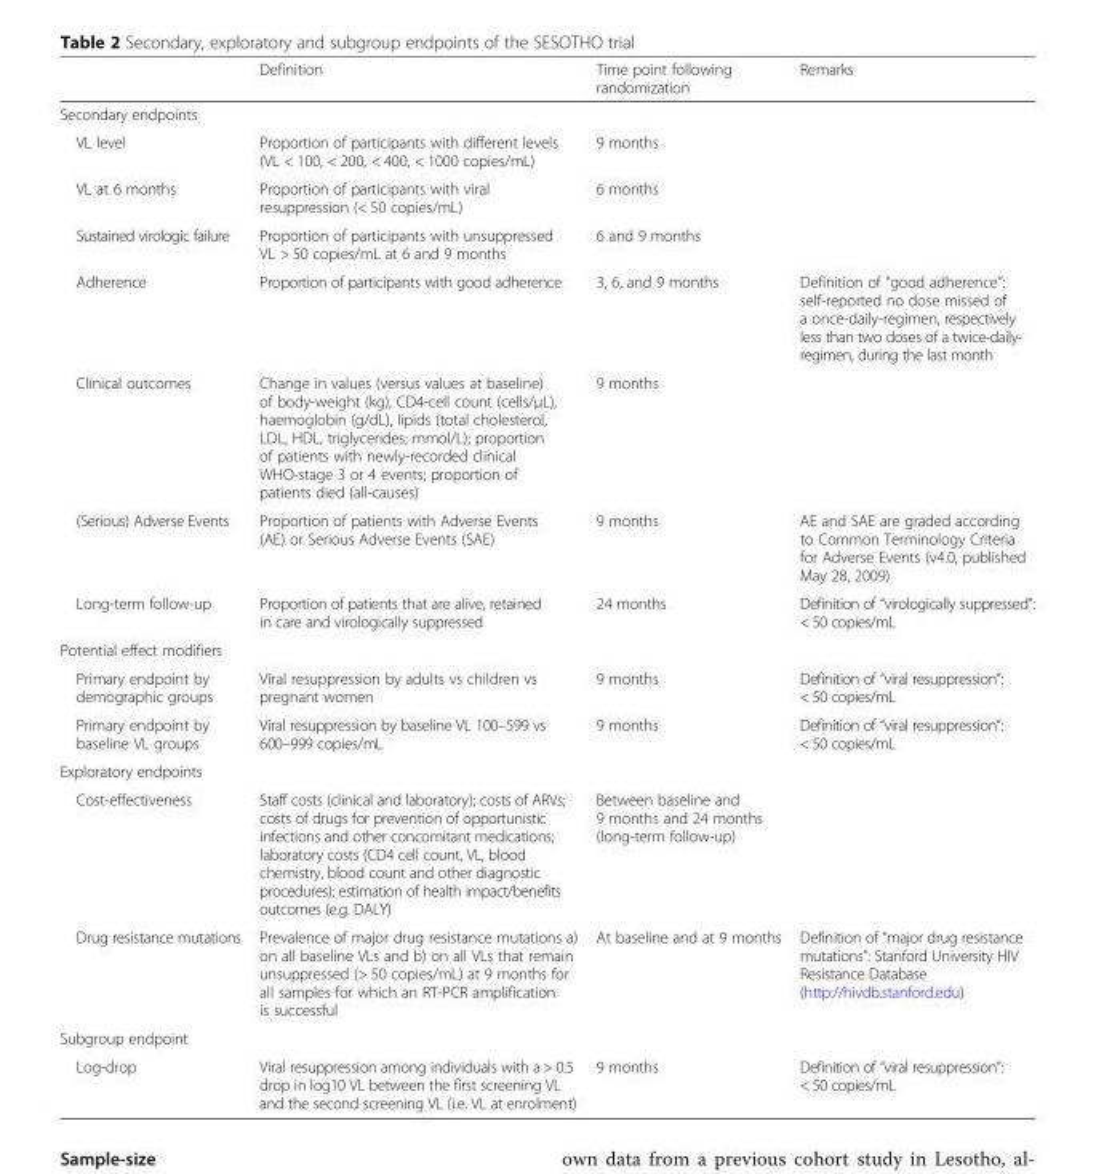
<table><thead><tr><td></td><td>Definition</td><td>Time point following randomization</td><td>Remarks</td></tr></thead><tbody><tr><td colspan="4">Secondary endpoints</td></tr><tr><td>VL level</td><td>Proportion of participants with different levels (VL &lt; 100, &lt; 200, &lt; 400, &lt; 1000 copies/mL)</td><td>9 months</td><td></td></tr><tr><td>VL at 6 months</td><td>Proportion of participants with viral resuppression (&lt; 50 copies/mL)</td><td>6 months</td><td></td></tr><tr><td>Sustained virologic failure</td><td>Proportion of participants with unsuppressed VL &gt; 50 copies/mL at 6 and 9 months</td><td>6 and 9 months</td><td></td></tr><tr><td>Adherence</td><td>Proportion of participants with good adherence</td><td>3, 6, and 9 months</td><td>Definition of “good adherence”: self-reported no dose missed of a once-daily-regimen, respectively less than two doses of a twice-daily- regimen, during the last month</td></tr><tr><td>Clinical outcomes</td><td>Change in values (versus values at baseline) of body-weight (kg), CD4-cell count (cells/μL), haemoglobin (g/dL), lipids (total cholesterol, LDL, HDL, triglycerides; mmol/L); proportion of patients with newly-recorded clinical WHO-stage 3 or 4 events; proportion of patients died (all-causes)</td><td>9 months</td><td></td></tr><tr><td>(Serious) Adverse Events</td><td>Proportion of patients with Adverse Events (AE) or Serious Adverse Events (SAE)</td><td>9 months</td><td>AE and SAE are graded according to Common Terminology Criteria for Adverse Events (v4.0, published May 28, 2009)</td></tr><tr><td>Long-term follow-up</td><td>Proportion of patients that are alive, retained in care and virologically suppressed</td><td>24 months</td><td>Definition of “virologically suppressed”: &lt; 50 copies/mL</td></tr><tr><td colspan="4">Potential effect modifiers</td></tr><tr><td>Primary endpoint by demographic groups</td><td>Viral resuppression by adults vs children vs pregnant women</td><td>9 months</td><td>Definition of “viral resuppression”: &lt; 50 copies/mL</td></tr><tr><td>Primary endpoint by baseline VL groups</td><td>Viral resuppression by baseline VL 100–599 vs 600–999 copies/mL</td><td>9 months</td><td>Definition of “viral resuppression”: &lt; 50 copies/mL</td></tr><tr><td colspan="4">Exploratory endpoints</td></tr><tr><td>Cost-effectiveness</td><td>Staff costs (clinical and laboratory); costs of ARVs; costs of drugs for prevention of opportunistic infections and other concomitant medications; laboratory costs (CD4 cell count, VL, blood chemistry, blood count and other diagnostic procedures); estimation of health impact/benefits outcomes (e.g. DALY)</td><td>Between baseline and 9 months and 24 months (long-term follow-up)</td><td></td></tr><tr><td>Drug resistance mutations</td><td>Prevalence of major drug resistance mutations a) on all baseline VLs and b) on all VLs that remain unsuppressed (&gt; 50 copies/mL) at 9 months for all samples for which an RT-PCR amplification is successful</td><td>At baseline and at 9 months</td><td>Definition of “major drug resistance mutations”: Stanford University HIV Resistance Database (http://hivdb.stanford.edu)</td></tr><tr><td colspan="4">Subgroup endpoint</td></tr><tr><td>Log-drop</td><td>Viral resuppression among individuals with a &gt; 0.5 drop in log10 VL between the first screening VL and the second screening VL (i.e. VL at enrolment)</td><td>9 months</td><td>Definition of “viral resuppression”: &lt; 50 copies/mL</td></tr></tbody></table>